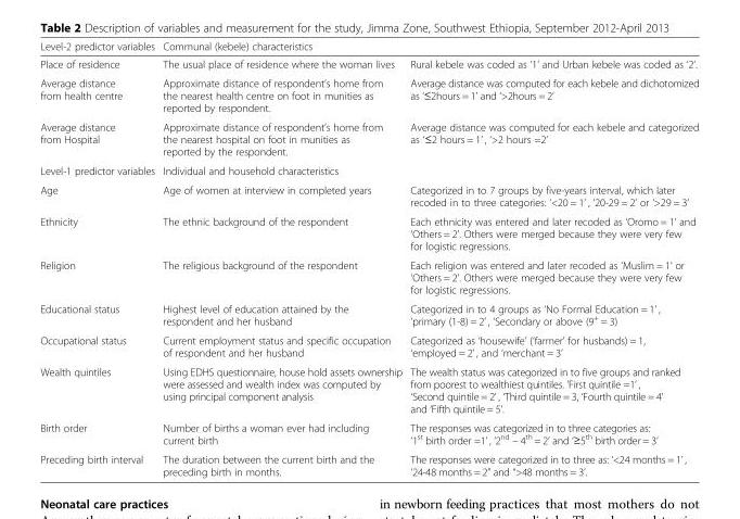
<table><thead><tr><td>Level-2 predictor variables</td><td>Communal (kebele) characteristics</td><td></td></tr></thead><tbody><tr><td>Place of residence</td><td>The usual place of residence where the woman lives</td><td>Rural kebele was coded as ‘1’ and Urban kebele was coded as ‘2’.</td></tr><tr><td>Average distance from health centre</td><td>Approximate distance of respondent’s home from the nearest health centre on foot in munities as reported by respondent.</td><td>Average distance was computed for each kebele and dichotomized as ‘≤2hours = 1’ and ‘&gt;2hours = 2’</td></tr><tr><td>Average distance from Hospital</td><td>Approximate distance of respondent’s home from the nearest hospital on foot in munities as reported by the respondent.</td><td>Average distance was computed for each kebele and categorized as ‘≤2 hours = 1’ , ‘&gt;2 hours =2’</td></tr><tr><td>Level-1 predictor variables</td><td>Individual and household characteristics</td><td></td></tr><tr><td>Age</td><td>Age of women at interview in completed years</td><td>Categorized in to 7 groups by five-years interval, which later recoded in to three categories: ‘&lt;20 = 1’ , ‘20-29 = 2’ or ‘&gt;29 = 3’</td></tr><tr><td>Ethnicity</td><td>The ethnic background of the respondent</td><td>Each ethnicity was entered and later recoded as ‘Oromo = 1’ and ‘Others = 2’. Others were merged because they were very few for logistic regressions.</td></tr><tr><td>Religion</td><td>The religious background of the respondent</td><td>Each religion was entered and later recoded as ‘Muslim = 1’ or ‘Others = 2’. Others were merged because they were very few for logistic regressions.</td></tr><tr><td>Educational status</td><td>Highest level of education attained by the respondent and her husband</td><td>Categorized in to 4 groups as ‘No Formal Education = 1’ , ‘primary (1-8) = 2’ , ‘Secondary or above (9<sup>+</sup> = 3)</td></tr><tr><td>Occupational status</td><td>Current employment status and specific occupation of respondent and her husband</td><td>Categorized as ‘housewife’ (‘farmer’ for husbands) = 1, ‘employed = 2’ , and ‘merchant = 3’</td></tr><tr><td>Wealth quintiles</td><td>Using EDHS questionnaire, house hold assets ownership were assessed and wealth index was computed by using principal component analysis</td><td>The wealth status was categorized in to five groups and ranked from poorest to wealthiest quintiles. ’First quintile =1’ , ‘Second quintile = 2’ , ‘Third quintile = 3, ‘Fourth quintile = 4’ and ‘Fifth quintile = 5’.</td></tr><tr><td>Birth order</td><td>Number of births a woman ever had including current birth</td><td>The responses was categorized in to three categories as: ‘1<sup>st</sup> birth order =1’ , ‘2<sup>nd</sup> – 4<sup>th</sup> = 2’ and ‘≥5<sup>th</sup> birth order = 3’</td></tr><tr><td>Preceding birth interval</td><td>The duration between the current birth and the preceding birth in months.</td><td>The responses were categorized in to three as: ‘&lt;24 months = 1’ , ‘24-48 months = 2” and “&gt;48 months = 3’.</td></tr></tbody></table>